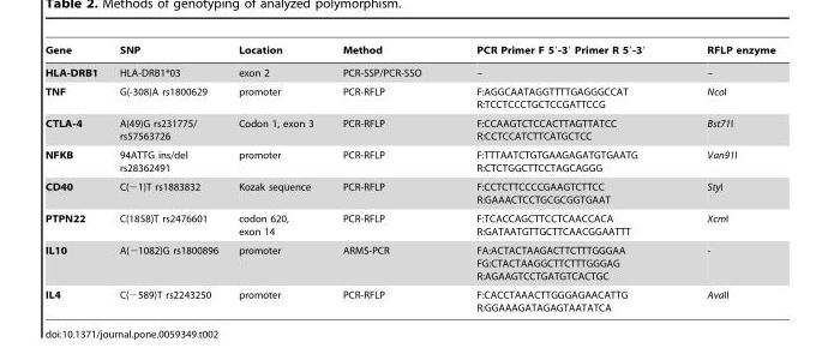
<table><thead><tr><td>Gene</td><td>SNP</td><td>Location</td><td>Method</td><td>PCR Primer F 5′-3′ Primer R 5′-3′</td><td>RFLP enzyme</td></tr></thead><tbody><tr><td>HLA-DRB1</td><td>HLA-DRB1*03</td><td>exon 2</td><td>PCR-SSP/PCR-SSO</td><td>–</td><td>–</td></tr><tr><td>TNF</td><td>G(-308)A rs1800629</td><td>promoter</td><td>PCR-RFLP</td><td>F:AGGCAATAGGTTTTGAGGGCCAT R:TCCTCCCTGCTCCGATTCCG</td><td>NcoI</td></tr><tr><td>CTLA-4</td><td>A(49)G rs231775/ rs57563726</td><td>Codon 1, exon 3</td><td>PCR-RFLP</td><td>F:CCAAGTCTCCACTTAGTTATCC R:CCTCCATCTTCATGCTCC</td><td>Bst71I</td></tr><tr><td>NFKB</td><td>94ATTG ins/del rs28362491</td><td>promoter</td><td>PCR-RFLP</td><td>F:TTTAATCTGTGAAGAGATGTGAATG R:CTCTGGCTTCCTAGCAGGG</td><td>Van91I</td></tr><tr><td>CD40</td><td>C(−1)T rs1883832</td><td>Kozak sequence</td><td>PCR-RFLP</td><td>F:CCTCTTCCCCGAAGTCTTCC R:GAAACTCCTGCGCGGTGAAT</td><td>StyI</td></tr><tr><td>PTPN22</td><td>C(1858)T rs2476601</td><td>codon 620, exon 14</td><td>PCR-RFLP</td><td>F:TCACCAGCTTCCTCAACCACA R:GATAATGTTGCTTCAACGGAATTT</td><td>XcmI</td></tr><tr><td>IL10</td><td>A(−1082)G rs1800896</td><td>promoter</td><td>ARMS-PCR</td><td>FA:ACTACTAAGACTTCTTTGGGAA FG:CTACTAAGGCTTCTTTGGGAG R:AGAAGTCCTGATGTCACTGC</td><td>-</td></tr><tr><td>IL4</td><td>C(−589)T rs2243250</td><td>promoter</td><td>PCR-RFLP</td><td>F:CACCTAAACTTGGGAGAACATTG R:GGAAAGATAGAGTAATATCA</td><td>AvaII</td></tr></tbody></table>